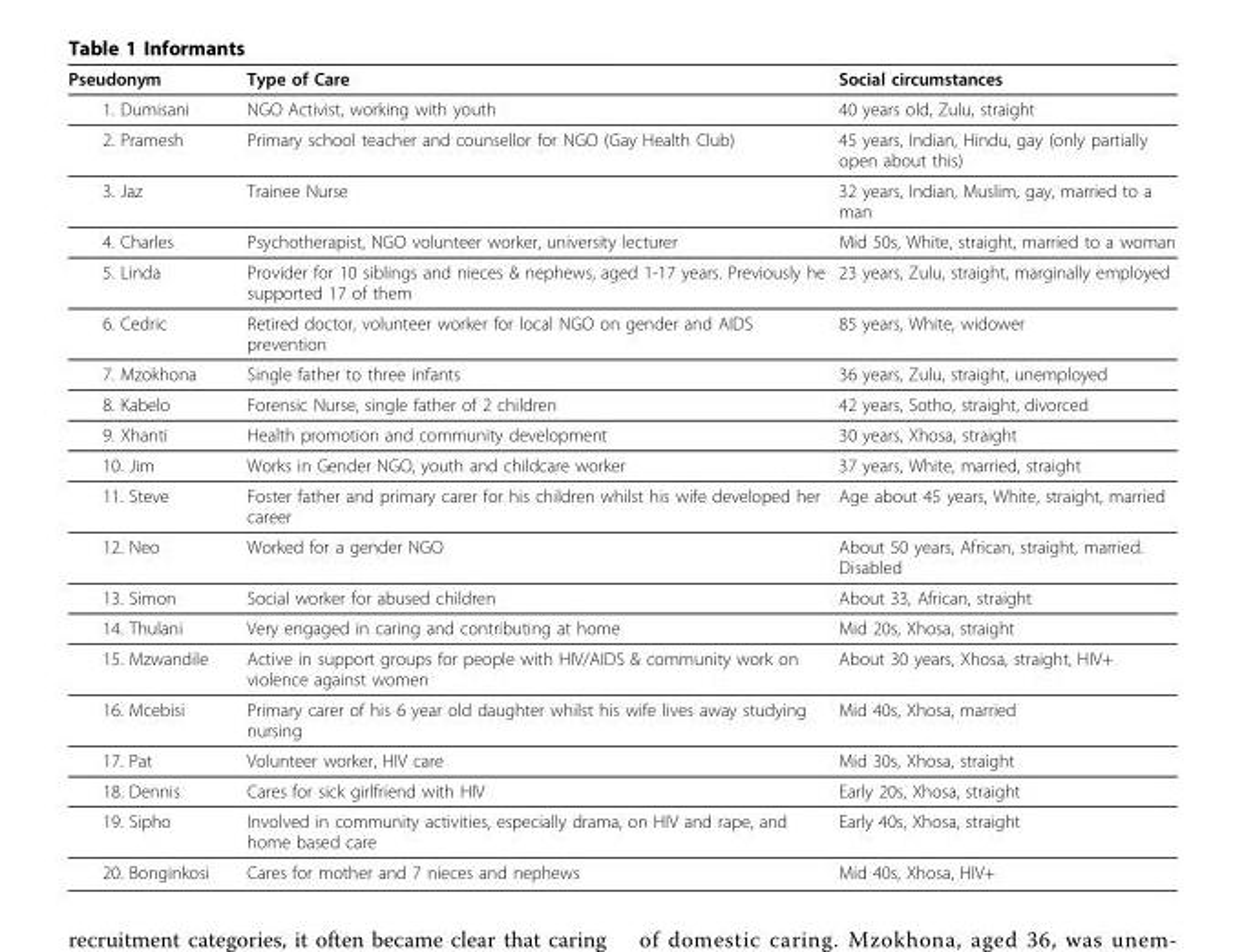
<table><thead><tr><td>Pseudonym</td><td>Type of Care</td><td>Social circumstances</td></tr></thead><tbody><tr><td>1. Dumisani</td><td>NGO Activist, working with youth</td><td>40 years old, Zulu, straight</td></tr><tr><td>2. Pramesh</td><td>Primary school teacher and counsellor for NGO (Gay Health Club)</td><td>45 years, Indian, Hindu, gay (only partially open about this)</td></tr><tr><td>3. Jaz</td><td>Trainee Nurse</td><td>32 years, Indian, Muslim, gay, married to a man</td></tr><tr><td>4. Charles</td><td>Psychotherapist, NGO volunteer worker, university lecturer</td><td>Mid 50s, White, straight, married to a woman</td></tr><tr><td>5. Linda</td><td>Provider for 10 siblings and nieces &amp; nephews, aged 1-17 years. Previously he supported 17 of them</td><td>23 years, Zulu, straight, marginally employed</td></tr><tr><td>6. Cedric</td><td>Retired doctor, volunteer worker for local NGO on gender and AIDS prevention</td><td>85 years, White, widower</td></tr><tr><td>7. Mzokhona</td><td>Single father to three infants</td><td>36 years, Zulu, straight, unemployed</td></tr><tr><td>8. Kabelo</td><td>Forensic Nurse, single father of 2 children</td><td>42 years, Sotho, straight, divorced</td></tr><tr><td>9. Xhanti</td><td>Health promotion and community development</td><td>30 years, Xhosa, straight</td></tr><tr><td>10. Jim</td><td>Works in Gender NGO, youth and childcare worker</td><td>37 years, White, married, straight</td></tr><tr><td>11. Steve</td><td>Foster father and primary carer for his children whilst his wife developed her career</td><td>Age about 45 years, White, straight, married</td></tr><tr><td>12. Neo</td><td>Worked for a gender NGO</td><td>About 50 years, African, straight, married. Disabled</td></tr><tr><td>13. Simon</td><td>Social worker for abused children</td><td>About 33, African, straight</td></tr><tr><td>14. Thulani</td><td>Very engaged in caring and contributing at home</td><td>Mid 20s, Xhosa, straight</td></tr><tr><td>15. Mzwandile</td><td>Active in support groups for people with HIV/AIDS &amp; community work on violence against women</td><td>About 30 years, Xhosa, straight, HIV+</td></tr><tr><td>16. Mcebisi</td><td>Primary carer of his 6 year old daughter whilst his wife lives away studying nursing</td><td>Mid 40s, Xhosa, married</td></tr><tr><td>17. Pat</td><td>Volunteer worker, HIV care</td><td>Mid 30s, Xhosa, straight</td></tr><tr><td>18. Dennis</td><td>Cares for sick girlfriend with HIV</td><td>Early 20s, Xhosa, straight</td></tr><tr><td>19. Sipho</td><td>Involved in community activities, especially drama, on HIV and rape, and home based care</td><td>Early 40s, Xhosa, straight</td></tr><tr><td>20. Bonginkosi</td><td>Cares for mother and 7 nieces and nephews</td><td>Mid 40s, Xhosa, HIV+</td></tr></tbody></table>